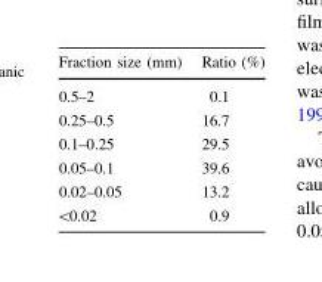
<table><thead><tr><td>Fraction size (mm)</td><td>Ratio (%)</td></tr></thead><tbody><tr><td>0.5–2</td><td>0.1</td></tr><tr><td>0.25–0.5</td><td>16.7</td></tr><tr><td>0.1–0.25</td><td>29.5</td></tr><tr><td>0.05–0.1</td><td>39.6</td></tr><tr><td>0.02–0.05</td><td>13.2</td></tr><tr><td>&lt;0.02</td><td>0.9</td></tr></tbody></table>